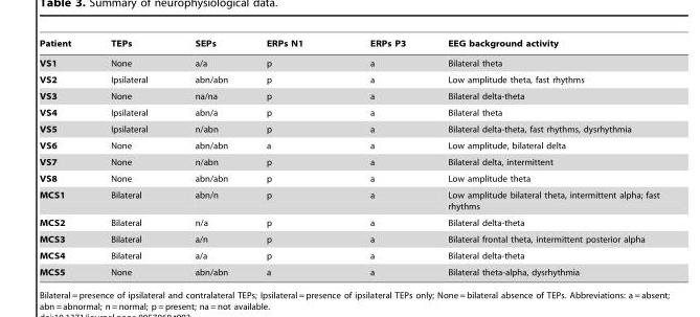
<table><thead><tr><td>Patient</td><td>TEPs</td><td>SEPs</td><td>ERPs N1</td><td>ERPs P3</td><td>EEG background activity</td></tr></thead><tbody><tr><td>VS1</td><td>None</td><td>a/a</td><td>p</td><td>a</td><td>Bilateral theta</td></tr><tr><td>VS2</td><td>Ipsilateral</td><td>abn/abn</td><td>p</td><td>a</td><td>Low amplitude theta, fast rhythms</td></tr><tr><td>VS3</td><td>None</td><td>na/na</td><td>p</td><td>a</td><td>Bilateral delta-theta</td></tr><tr><td>VS4</td><td>Ipsilateral</td><td>abn/a</td><td>p</td><td>a</td><td>Bilateral theta</td></tr><tr><td>VS5</td><td>Ipsilateral</td><td>n/abn</td><td>p</td><td>a</td><td>Bilateral delta-theta, fast rhythms, dysrhythmia</td></tr><tr><td>VS6</td><td>None</td><td>abn/abn</td><td>a</td><td>a</td><td>Low amplitude, bilateral delta</td></tr><tr><td>VS7</td><td>None</td><td>n/abn</td><td>p</td><td>a</td><td>Bilateral delta, intermittent</td></tr><tr><td>VS8</td><td>None</td><td>abn/abn</td><td>p</td><td>a</td><td>Low amplitude theta</td></tr><tr><td>MCS1</td><td>Bilateral</td><td>abn/n</td><td>p</td><td>a</td><td>Low amplitude bilateral theta, intermittent alpha; fast rhythms</td></tr><tr><td>MCS2</td><td>Bilateral</td><td>n/a</td><td>p</td><td>a</td><td>Bilateral delta-theta</td></tr><tr><td>MCS3</td><td>Bilateral</td><td>a/n</td><td>p</td><td>a</td><td>Bilateral frontal theta, intermittent posterior alpha</td></tr><tr><td>MCS4</td><td>Bilateral</td><td>a/a</td><td>p</td><td>a</td><td>Bilateral delta-theta</td></tr><tr><td>MCS5</td><td>None</td><td>abn/abn</td><td>a</td><td>a</td><td>Bilateral theta-alpha, dysrhythmia</td></tr></tbody></table>